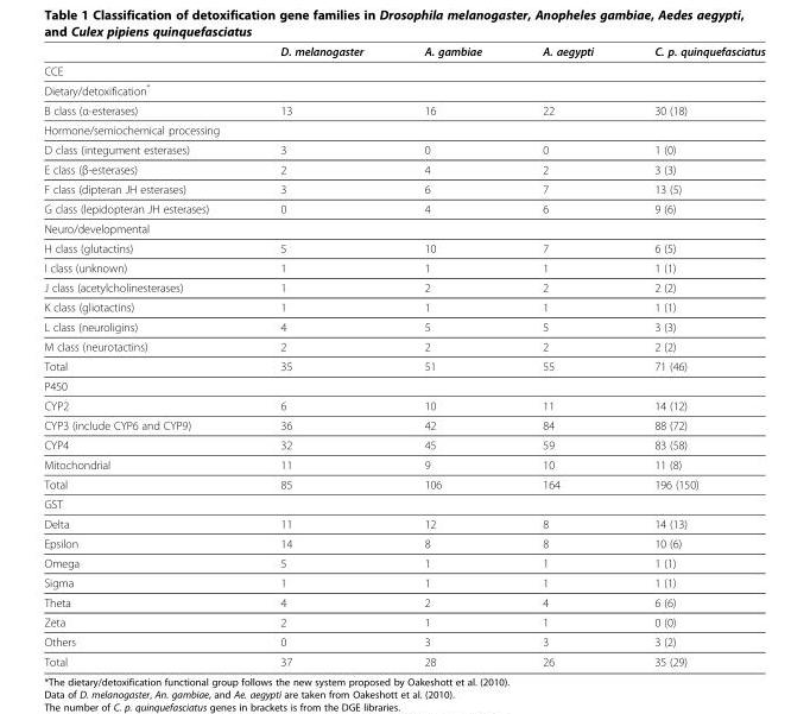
<table><thead><tr><td></td><td>D. melanogaster</td><td>A. gambiae</td><td>A. aegypti</td><td>C. p. quinquefasciatus</td></tr></thead><tbody><tr><td colspan="5">CCE</td></tr><tr><td colspan="5">Dietary/detoxification*</td></tr><tr><td>B class (α-esterases)</td><td>13</td><td>16</td><td>22</td><td>30 (18)</td></tr><tr><td colspan="5">Hormone/semiochemical processing</td></tr><tr><td>D class (integument esterases)</td><td>3</td><td>0</td><td>0</td><td>1 (0)</td></tr><tr><td>E class (β-esterases)</td><td>2</td><td>4</td><td>2</td><td>3 (3)</td></tr><tr><td>F class (dipteran JH esterases)</td><td>3</td><td>6</td><td>7</td><td>13 (5)</td></tr><tr><td>G class (lepidopteran JH esterases)</td><td>0</td><td>4</td><td>6</td><td>9 (6)</td></tr><tr><td colspan="5">Neuro/developmental</td></tr><tr><td>H class (glutactins)</td><td>5</td><td>10</td><td>7</td><td>6 (5)</td></tr><tr><td>I class (unknown)</td><td>1</td><td>1</td><td>1</td><td>1 (1)</td></tr><tr><td>J class (acetylcholinesterases)</td><td>1</td><td>2</td><td>2</td><td>2 (2)</td></tr><tr><td>K class (gliotactins)</td><td>1</td><td>1</td><td>1</td><td>1 (1)</td></tr><tr><td>L class (neuroligins)</td><td>4</td><td>5</td><td>5</td><td>3 (3)</td></tr><tr><td>M class (neurotactins)</td><td>2</td><td>2</td><td>2</td><td>2 (2)</td></tr><tr><td>Total</td><td>35</td><td>51</td><td>55</td><td>71 (46)</td></tr><tr><td colspan="5">P450</td></tr><tr><td>CYP2</td><td>6</td><td>10</td><td>11</td><td>14 (12)</td></tr><tr><td>CYP3 (include CYP6 and CYP9)</td><td>36</td><td>42</td><td>84</td><td>88 (72)</td></tr><tr><td>CYP4</td><td>32</td><td>45</td><td>59</td><td>83 (58)</td></tr><tr><td>Mitochondrial</td><td>11</td><td>9</td><td>10</td><td>11 (8)</td></tr><tr><td>Total</td><td>85</td><td>106</td><td>164</td><td>196 (150)</td></tr><tr><td colspan="5">GST</td></tr><tr><td>Delta</td><td>11</td><td>12</td><td>8</td><td>14 (13)</td></tr><tr><td>Epsilon</td><td>14</td><td>8</td><td>8</td><td>10 (6)</td></tr><tr><td>Omega</td><td>5</td><td>1</td><td>1</td><td>1 (1)</td></tr><tr><td>Sigma</td><td>1</td><td>1</td><td>1</td><td>1 (1)</td></tr><tr><td>Theta</td><td>4</td><td>2</td><td>4</td><td>6 (6)</td></tr><tr><td>Zeta</td><td>2</td><td>1</td><td>1</td><td>0 (0)</td></tr><tr><td>Others</td><td>0</td><td>3</td><td>3</td><td>3 (2)</td></tr><tr><td>Total</td><td>37</td><td>28</td><td>26</td><td>35 (29)</td></tr></tbody></table>